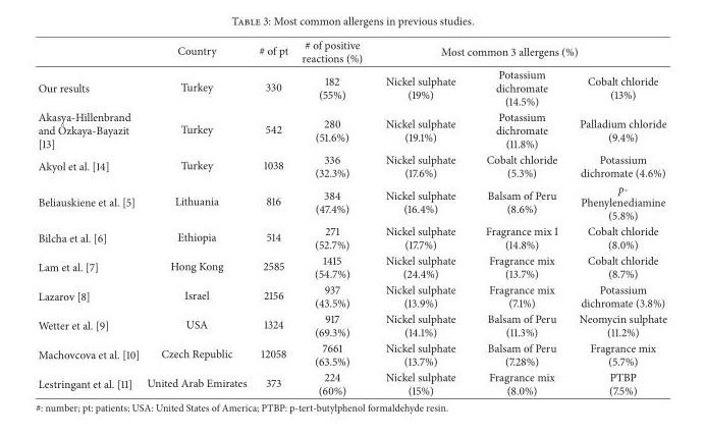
<table><thead><tr><td rowspan="2">Our results</td><td rowspan="2">Country Turkey</td><td rowspan="2"># of pt 330</td><td rowspan="2"># of positive reactions (%) 182 (55%)</td><td colspan="3">Most common 3 allergens (%)</td></tr><tr><td>Nickel sulphate (19%)</td><td>Potassium dichromate (14.5%)</td><td>Cobalt chloride (13%)</td></tr></thead><tbody><tr><td>Akasya-Hillenbrand and ¨Ozkaya-Bayazit [13]</td><td>Turkey</td><td>542</td><td>280 (51.6%)</td><td>Nickel sulphate (19.1%)</td><td>Potassium dichromate (11.8%)</td><td>Palladium chloride (9.4%)</td></tr><tr><td>Akyol et al. [14]</td><td>Turkey</td><td>1038</td><td>336 (32.3%)</td><td>Nickel sulphate (17.6%)</td><td>Cobalt chloride (5.3%)</td><td>Potassium dichromate (4.6%)</td></tr><tr><td>Beliauskiene et al. [5]</td><td>Lithuania</td><td>816</td><td>384 (47.4%)</td><td>Nickel sulphate (16.4%)</td><td>Balsam of Peru (8.6%)</td><td>p- Phenylenediamine (5.8%)</td></tr><tr><td>Bilcha et al. [6]</td><td>Ethiopia</td><td>514</td><td>271 (52.7%)</td><td>Nickel sulphate (17.7%)</td><td>Fragrance mix I (14.8%)</td><td>Cobalt chloride (8.0%)</td></tr><tr><td>Lam et al. [7]</td><td>Hong Kong</td><td>2585</td><td>1415 (54.7%)</td><td>Nickel sulphate (24.4%)</td><td>Fragrance mix (13.7%)</td><td>Cobalt chloride (8.7%)</td></tr><tr><td>Lazarov [8]</td><td>Israel</td><td>2156</td><td>937 (43.5%)</td><td>Nickel sulphate (13.9%)</td><td>Fragrance mix (7.1%)</td><td>Potassium dichromate (3.8%)</td></tr><tr><td>Wetter et al. [9]</td><td>USA</td><td>1324</td><td>917 (69.3%)</td><td>Nickel sulphate (14.1%)</td><td>Balsam of Peru (11.3%)</td><td>Neomycin sulphate (11.2%)</td></tr><tr><td>Machovcova et al. [10]</td><td>Czech Republic</td><td>12058</td><td>7661 (63.5%)</td><td>Nickel sulphate (13.7%)</td><td>Balsam of Peru (7.28%)</td><td>Fragrance mix (5.7%)</td></tr><tr><td>Lestringant et al. [11]</td><td>United Arab Emirates</td><td>373</td><td>224 (60%)</td><td>Nickel sulphate (15%)</td><td>Fragrance mix (8.0%)</td><td>PTBP (7.5%)</td></tr></tbody></table>